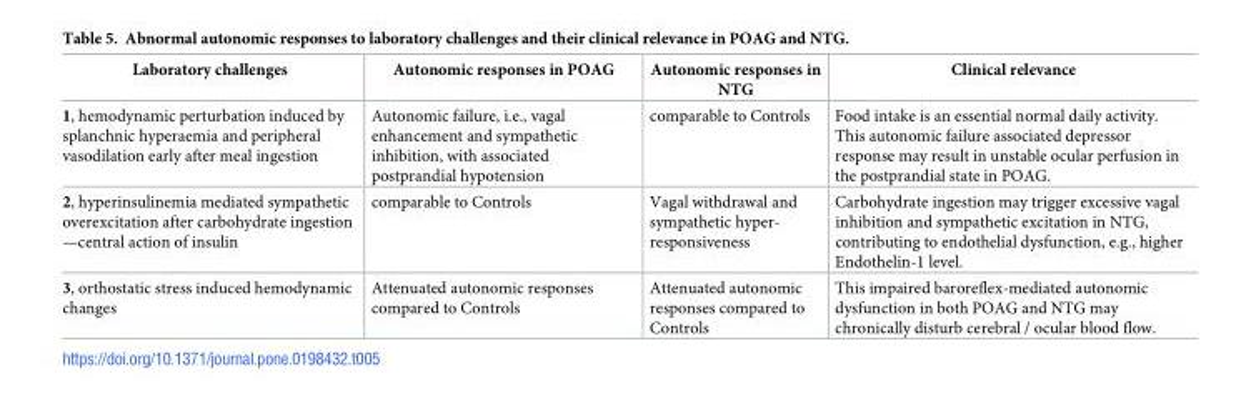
<table><thead><tr><td>Laboratory challenges</td><td>Autonomic responses in POAG</td><td>Autonomic responses in NTG</td><td>Clinical relevance</td></tr></thead><tbody><tr><td>1, hemodynamic perturbation induced by splanchnic hyperaemia and peripheral vasodilation early after meal ingestion</td><td>Autonomic failure, i.e., vagal enhancement and sympathetic inhibition, with associated postprandial hypotension</td><td>comparable to Controls</td><td>Food intake is an essential normal daily activity. This autonomic failure associated depressor response may result in unstable ocular perfusion in the postprandial state in POAG.</td></tr><tr><td>2, hyperinsulinemia mediated sympathetic overexcitation after carbohydrate ingestion —central action of insulin</td><td>comparable to Controls</td><td>Vagal withdrawal and sympathetic hyper- responsiveness</td><td>Carbohydrate ingestion may trigger excessive vagal inhibition and sympathetic excitation in NTG, contributing to endothelial dysfunction, e.g., higher Endothelin-1 level.</td></tr><tr><td>3, orthostatic stress induced hemodynamic changes</td><td>Attenuated autonomic responses compared to Controls</td><td>Attenuated autonomic responses compared to Controls</td><td>This impaired baroreflex-mediated autonomic dysfunction in both POAG and NTG may chronically disturb cerebral / ocular blood flow.</td></tr></tbody></table>